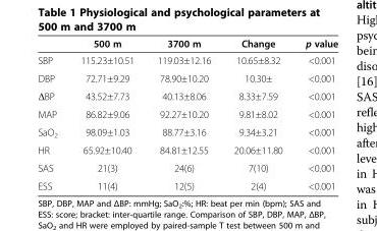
<table><thead><tr><td></td><td>500 m</td><td>3700 m</td><td>Change</td><td>p value</td></tr></thead><tbody><tr><td>SBP</td><td>115.23±10.51</td><td>119.03±12.16</td><td>10.65±8.32</td><td>&lt;0.001</td></tr><tr><td>DBP</td><td>72.71±9.29</td><td>78.90±10.20</td><td>10.30±</td><td>&lt;0.001</td></tr><tr><td>ΔBP</td><td>43.52±7.73</td><td>40.13±8.06</td><td>8.33±7.59</td><td>&lt;0.001</td></tr><tr><td>MAP</td><td>86.82±9.06</td><td>92.27±10.20</td><td>9.81±8.02</td><td>&lt;0.001</td></tr><tr><td>SaO<sub>2</sub></td><td>98.09±1.03</td><td>88.77±3.16</td><td>9.34±3.21</td><td>&lt;0.001</td></tr><tr><td>HR</td><td>65.92±10.40</td><td>84.81±12.55</td><td>20.06±11.80</td><td>&lt;0.001</td></tr><tr><td>SAS</td><td>21(3)</td><td>24(6)</td><td>7(10)</td><td>&lt;0.001</td></tr><tr><td>ESS</td><td>11(4)</td><td>12(5)</td><td>2(4)</td><td>&lt;0.001</td></tr></tbody></table>